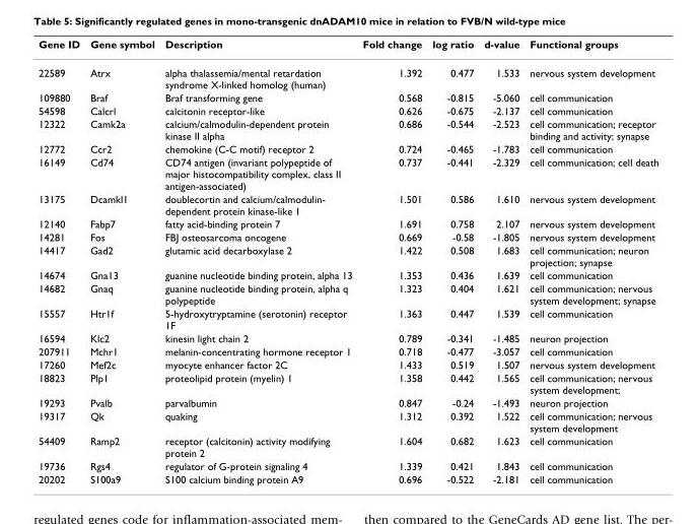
<table><thead><tr><td>Gene ID</td><td>Gene symbol</td><td>Description</td><td>Fold change</td><td>log ratio</td><td>d-value</td><td>Functional groups</td></tr></thead><tbody><tr><td>22589</td><td>Atrx</td><td>alpha thalassemia/mental retardation syndrome X-linked homolog (human)</td><td>1.392</td><td>0.477</td><td>1.533</td><td>nervous system development</td></tr><tr><td>109880</td><td>Braf</td><td>Braf transforming gene</td><td>0.568</td><td>-0.815</td><td>-5.060</td><td>cell communication</td></tr><tr><td>54598</td><td>Calcrl</td><td>calcitonin receptor-like</td><td>0.626</td><td>-0.675</td><td>-2.137</td><td>cell communication</td></tr><tr><td>12322</td><td>Camk2a</td><td>calcium/calmodulin-dependent protein kinase II alpha</td><td>0.686</td><td>-0.544</td><td>-2.523</td><td>cell communication; receptor binding and activity; synapse</td></tr><tr><td>12772</td><td>Ccr2</td><td>chemokine (C-C motif) receptor 2</td><td>0.724</td><td>-0.465</td><td>-1.783</td><td>cell communication</td></tr><tr><td>16149</td><td>Cd74</td><td>CD74 antigen (invariant polypeptide of major histocompatibility complex, class II antigen-associated)</td><td>0.737</td><td>-0.441</td><td>-2.329</td><td>cell communication; cell death</td></tr><tr><td>13175</td><td>Dcamkl1</td><td>doublecortin and calcium/calmodulin- dependent protein kinase-like 1</td><td>1.501</td><td>0.586</td><td>1.610</td><td>nervous system development</td></tr><tr><td>12140</td><td>Fabp7</td><td>fatty acid-binding protein 7</td><td>1.691</td><td>0.758</td><td>2.107</td><td>nervous system development</td></tr><tr><td>14281</td><td>Fos</td><td>FBJ osteosarcoma oncogene</td><td>0.669</td><td>-0.58</td><td>-1.805</td><td>nervous system development</td></tr><tr><td>14417</td><td>Gad2</td><td>glutamic acid decarboxylase 2</td><td>1.422</td><td>0.508</td><td>1.683</td><td>cell communication; neuron projection; synapse</td></tr><tr><td>14674</td><td>Gna13</td><td>guanine nucleotide binding protein, alpha 13</td><td>1.353</td><td>0.436</td><td>1.639</td><td>cell communication</td></tr><tr><td>14682</td><td>Gnaq</td><td>guanine nucleotide binding protein, alpha q polypeptide</td><td>1.323</td><td>0.404</td><td>1.621</td><td>cell communication; nervous system development; synapse</td></tr><tr><td>15557</td><td>Htr1f</td><td>5-hydroxytryptamine (serotonin) receptor 1F</td><td>1.363</td><td>0.447</td><td>1.539</td><td>cell communication</td></tr><tr><td>16594</td><td>Klc2</td><td>kinesin light chain 2</td><td>0.789</td><td>-0.341</td><td>-1.485</td><td>neuron projection</td></tr><tr><td>207911</td><td>Mchr1</td><td>melanin-concentrating hormone receptor 1</td><td>0.718</td><td>-0.477</td><td>-3.057</td><td>cell communication</td></tr><tr><td>17260</td><td>Mef2c</td><td>myocyte enhancer factor 2C</td><td>1.433</td><td>0.519</td><td>1.507</td><td>nervous system development</td></tr><tr><td>18823</td><td>Plp1</td><td>proteolipid protein (myelin) 1</td><td>1.358</td><td>0.442</td><td>1.565</td><td>cell communication; nervous system development;</td></tr><tr><td>19293</td><td>Pvalb</td><td>parvalbumin</td><td>0.847</td><td>-0.24</td><td>-1.493</td><td>neuron projection</td></tr><tr><td>19317</td><td>Qk</td><td>quaking</td><td>1.312</td><td>0.392</td><td>1.522</td><td>cell communication; nervous system development</td></tr><tr><td>54409</td><td>Ramp2</td><td>receptor (calcitonin) activity modifying protein 2</td><td>1.604</td><td>0.682</td><td>1.623</td><td>cell communication</td></tr><tr><td>19736</td><td>Rgs4</td><td>regulator of G-protein signaling 4</td><td>1.339</td><td>0.421</td><td>1.843</td><td>cell communication</td></tr><tr><td>20202</td><td>S100a9</td><td>S100 calcium binding protein A9</td><td>0.696</td><td>-0.522</td><td>-2.181</td><td>cell communication</td></tr></tbody></table>